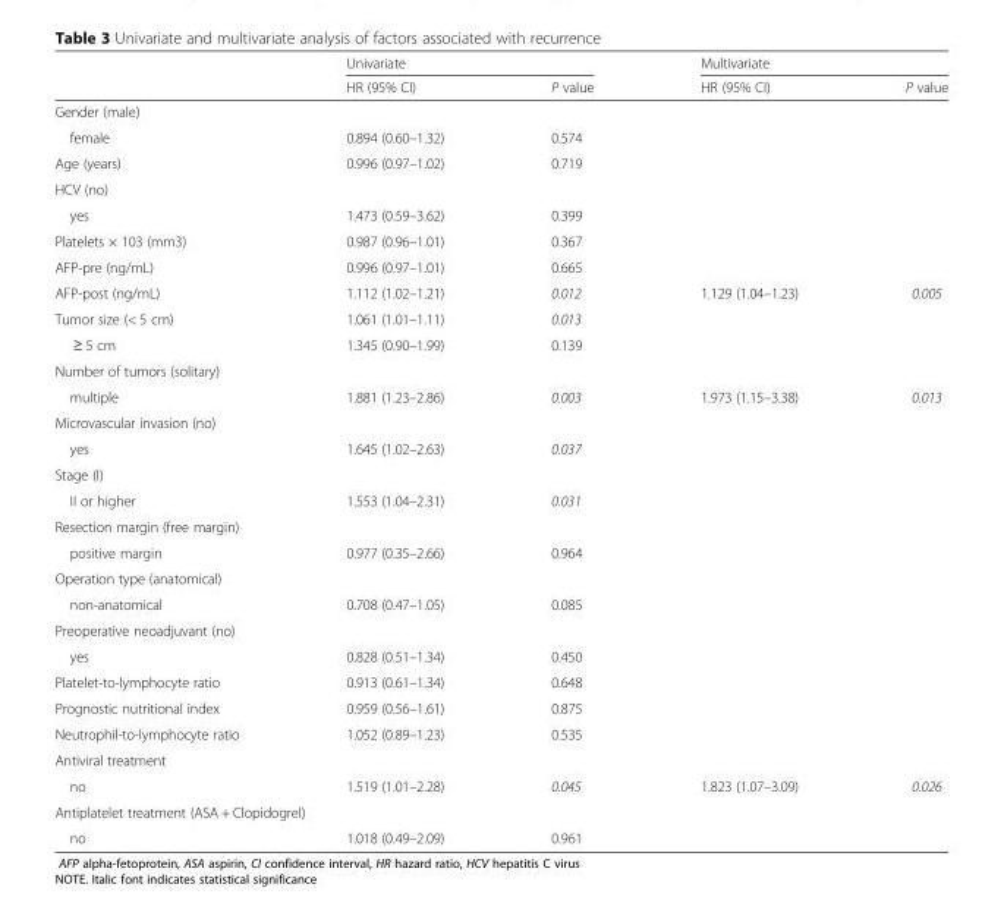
<table><thead><tr><td rowspan="2"></td><td colspan="2">Univariate</td><td colspan="2">Multivariate</td></tr><tr><td>HR (95% CI)</td><td>P value</td><td>HR (95% CI)</td><td>P value</td></tr></thead><tbody><tr><td colspan="5">Gender (male)</td></tr><tr><td>female</td><td>0.894 (0.60–1.32)</td><td>0.574</td><td></td><td></td></tr><tr><td>Age (years)</td><td>0.996 (0.97–1.02)</td><td>0.719</td><td></td><td></td></tr><tr><td colspan="5">HCV (no)</td></tr><tr><td>yes</td><td>1.473 (0.59–3.62)</td><td>0.399</td><td></td><td></td></tr><tr><td>Platelets × 103 (mm3)</td><td>0.987 (0.96–1.01)</td><td>0.367</td><td></td><td></td></tr><tr><td>AFP-pre (ng/mL)</td><td>0.996 (0.97–1.01)</td><td>0.665</td><td></td><td></td></tr><tr><td>AFP-post (ng/mL)</td><td>1.112 (1.02–1.21)</td><td>0.012</td><td>1.129 (1.04–1.23)</td><td>0.005</td></tr><tr><td>Tumor size (&lt; 5 cm)</td><td>1.061 (1.01–1.11)</td><td>0.013</td><td></td><td></td></tr><tr><td>≥ 5 cm</td><td>1.345 (0.90–1.99)</td><td>0.139</td><td></td><td></td></tr><tr><td colspan="5">Number of tumors (solitary)</td></tr><tr><td>multiple</td><td>1.881 (1.23–2.86)</td><td>0.003</td><td>1.973 (1.15–3.38)</td><td>0.013</td></tr><tr><td colspan="5">Microvascular invasion (no)</td></tr><tr><td>yes</td><td>1.645 (1.02–2.63)</td><td>0.037</td><td></td><td></td></tr><tr><td colspan="5">Stage (I)</td></tr><tr><td>II or higher</td><td>1.553 (1.04–2.31)</td><td>0.031</td><td></td><td></td></tr><tr><td colspan="5">Resection margin (free margin)</td></tr><tr><td>positive margin</td><td>0.977 (0.35–2.66)</td><td>0.964</td><td></td><td></td></tr><tr><td colspan="5">Operation type (anatomical)</td></tr><tr><td>non-anatomical</td><td>0.708 (0.47–1.05)</td><td>0.085</td><td></td><td></td></tr><tr><td colspan="5">Preoperative neoadjuvant (no)</td></tr><tr><td>yes</td><td>0.828 (0.51–1.34)</td><td>0.450</td><td></td><td></td></tr><tr><td>Platelet-to-lymphocyte ratio</td><td>0.913 (0.61–1.34)</td><td>0.648</td><td></td><td></td></tr><tr><td>Prognostic nutritional index</td><td>0.959 (0.56–1.61)</td><td>0.875</td><td></td><td></td></tr><tr><td>Neutrophil-to-lymphocyte ratio</td><td>1.052 (0.89–1.23)</td><td>0.535</td><td></td><td></td></tr><tr><td colspan="5">Antiviral treatment</td></tr><tr><td>no</td><td>1.519 (1.01–2.28)</td><td>0.045</td><td>1.823 (1.07–3.09)</td><td>0.026</td></tr><tr><td colspan="5">Antiplatelet treatment (ASA + Clopidogrel)</td></tr><tr><td>no</td><td>1.018 (0.49–2.09)</td><td>0.961</td><td></td><td></td></tr></tbody></table>